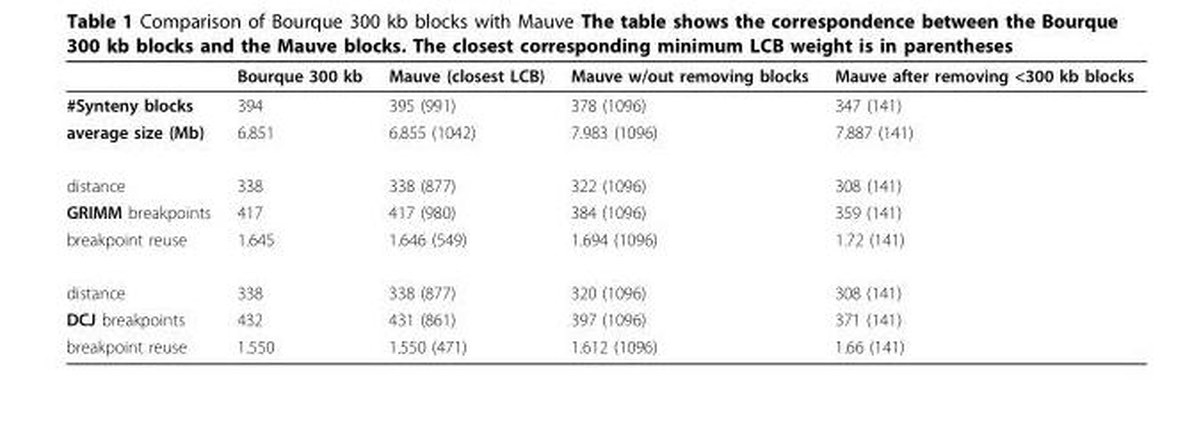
<table><thead><tr><td></td><td>Bourque 300 kb</td><td>Mauve (closest LCB)</td><td>Mauve w/out removing blocks</td><td>Mauve after removing &lt;300 kb blocks</td></tr></thead><tbody><tr><td>#Synteny blocks</td><td>394</td><td>395 (991)</td><td>378 (1096)</td><td>347 (141)</td></tr><tr><td>average size (Mb)</td><td>6.851</td><td>6.855 (1042)</td><td>7.983 (1096)</td><td>7.887 (141)</td></tr><tr><td>distance</td><td>338</td><td>338 (877)</td><td>322 (1096)</td><td>308 (141)</td></tr><tr><td>GRIMM breakpoints</td><td>417</td><td>417 (980)</td><td>384 (1096)</td><td>359 (141)</td></tr><tr><td>breakpoint reuse</td><td>1.645</td><td>1.646 (549)</td><td>1.694 (1096)</td><td>1.72 (141)</td></tr><tr><td>distance</td><td>338</td><td>338 (877)</td><td>320 (1096)</td><td>308 (141)</td></tr><tr><td>DCJ breakpoints</td><td>432</td><td>431 (861)</td><td>397 (1096)</td><td>371 (141)</td></tr><tr><td>breakpoint reuse</td><td>1.550</td><td>1.550 (471)</td><td>1.612 (1096)</td><td>1.66 (141)</td></tr></tbody></table>